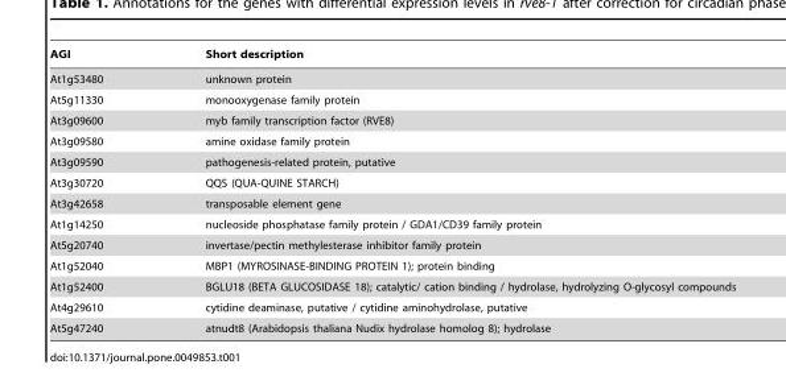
<table><thead><tr><td>AGI</td><td>Short description</td></tr></thead><tbody><tr><td>At1g53480</td><td>unknown protein</td></tr><tr><td>At5g11330</td><td>monooxygenase family protein</td></tr><tr><td>At3g09600</td><td>myb family transcription factor (RVE8)</td></tr><tr><td>At3g09580</td><td>amine oxidase family protein</td></tr><tr><td>At3g09590</td><td>pathogenesis-related protein, putative</td></tr><tr><td>At3g30720</td><td>QQS (QUA-QUINE STARCH)</td></tr><tr><td>At3g42658</td><td>transposable element gene</td></tr><tr><td>At1g14250</td><td>nucleoside phosphatase family protein / GDA1/CD39 family protein</td></tr><tr><td>At5g20740</td><td>invertase/pectin methylesterase inhibitor family protein</td></tr><tr><td>At1g52040</td><td>MBP1 (MYROSINASE-BINDING PROTEIN 1); protein binding</td></tr><tr><td>At1g52400</td><td>BGLU18 (BETA GLUCOSIDASE 18); catalytic/ cation binding / hydrolase, hydrolyzing O-glycosyl compounds</td></tr><tr><td>At4g29610</td><td>cytidine deaminase, putative / cytidine aminohydrolase, putative</td></tr><tr><td>At5g47240</td><td>atnudt8 (Arabidopsis thaliana Nudix hydrolase homolog 8); hydrolase</td></tr></tbody></table>